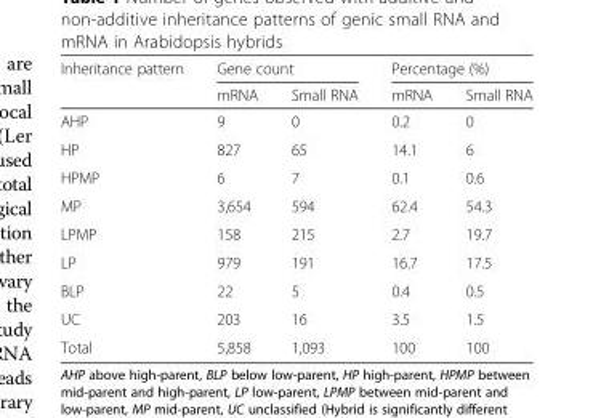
<table><thead><tr><td rowspan="2">Inheritance pattern</td><td colspan="2">Gene count</td><td colspan="2">Percentage (%)</td></tr><tr><td>mRNA</td><td>Small RNA</td><td>mRNA</td><td>Small RNA</td></tr></thead><tbody><tr><td>AHP</td><td>9</td><td>0</td><td>0.2</td><td>0</td></tr><tr><td>HP</td><td>827</td><td>65</td><td>14.1</td><td>6</td></tr><tr><td>HPMP</td><td>6</td><td>7</td><td>0.1</td><td>0.6</td></tr><tr><td>MP</td><td>3,654</td><td>594</td><td>62.4</td><td>54.3</td></tr><tr><td>LPMP</td><td>158</td><td>215</td><td>2.7</td><td>19.7</td></tr><tr><td>LP</td><td>979</td><td>191</td><td>16.7</td><td>17.5</td></tr><tr><td>BLP</td><td>22</td><td>5</td><td>0.4</td><td>0.5</td></tr><tr><td>UC</td><td>203</td><td>16</td><td>3.5</td><td>1.5</td></tr><tr><td>Total</td><td>5,858</td><td>1,093</td><td>100</td><td>100</td></tr></tbody></table>